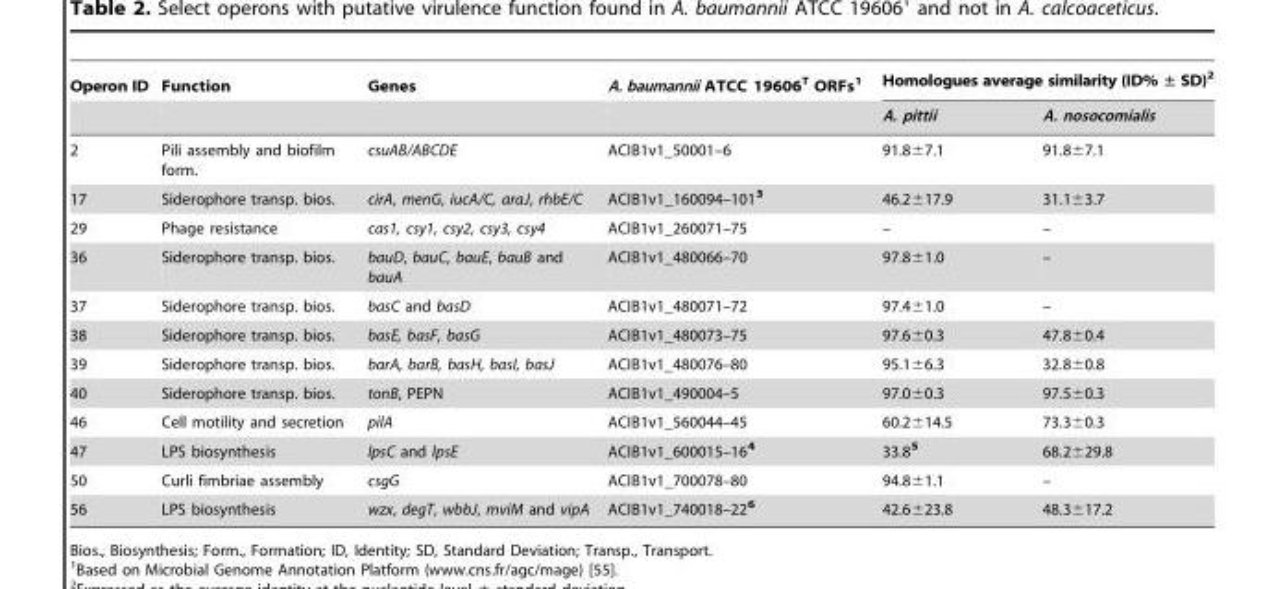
<table><thead><tr><td rowspan="2">Operon ID</td><td rowspan="2">Function</td><td rowspan="2">Genes</td><td rowspan="2">A. baumannii ATCC 19606<sup>T</sup> ORFs<sup>1</sup></td><td colspan="2">Homologues average similarity (ID% ± SD)<sup>2</sup></td></tr><tr><td>A. pittii</td><td>A. nosocomialis</td></tr></thead><tbody><tr><td>2</td><td>Pili assembly and biofilm form.</td><td>csuAB/ABCDE</td><td>ACIB1v1_50001–6</td><td>91.8±7.1</td><td>91.8±7.1</td></tr><tr><td>17</td><td>Siderophore transp. bios.</td><td>cirA, menG, iucA/C, araJ, rhbE/C</td><td>ACIB1v1_160094–101<sup>3</sup></td><td>46.2±17.9</td><td>31.1±3.7</td></tr><tr><td>29</td><td>Phage resistance</td><td>cas1, csy1, csy2, csy3, csy4</td><td>ACIB1v1_260071–75</td><td>–</td><td>–</td></tr><tr><td>36</td><td>Siderophore transp. bios.</td><td>bauD, bauC, bauE, bauB and bauA</td><td>ACIB1v1_480066–70</td><td>97.8±1.0</td><td>–</td></tr><tr><td>37</td><td>Siderophore transp. bios.</td><td>basC and basD</td><td>ACIB1v1_480071–72</td><td>97.4±1.0</td><td>–</td></tr><tr><td>38</td><td>Siderophore transp. bios.</td><td>basE, basF, basG</td><td>ACIB1v1_480073–75</td><td>97.6±0.3</td><td>47.8±0.4</td></tr><tr><td>39</td><td>Siderophore transp. bios.</td><td>barA, barB, basH, basI, basJ</td><td>ACIB1v1_480076–80</td><td>95.1±6.3</td><td>32.8±0.8</td></tr><tr><td>40</td><td>Siderophore transp. bios.</td><td>tonB, PEPN</td><td>ACIB1v1_490004–5</td><td>97.0±0.3</td><td>97.5±0.3</td></tr><tr><td>46</td><td>Cell motility and secretion</td><td>pilA</td><td>ACIB1v1_560044–45</td><td>60.2±14.5</td><td>73.3±0.3</td></tr><tr><td>47</td><td>LPS biosynthesis</td><td>lpsC and lpsE</td><td>ACIB1v1_600015–16<sup>4</sup></td><td>33.8<sup>5</sup></td><td>68.2±29.8</td></tr><tr><td>50</td><td>Curli fimbriae assembly</td><td>csgG</td><td>ACIB1v1_700078–80</td><td>94.8±1.1</td><td>–</td></tr><tr><td>56</td><td>LPS biosynthesis</td><td>wzx, degT, wbbJ, mviM and vipA</td><td>ACIB1v1_740018–22<sup>6</sup></td><td>42.6±23.8</td><td>48.3±17.2</td></tr></tbody></table>